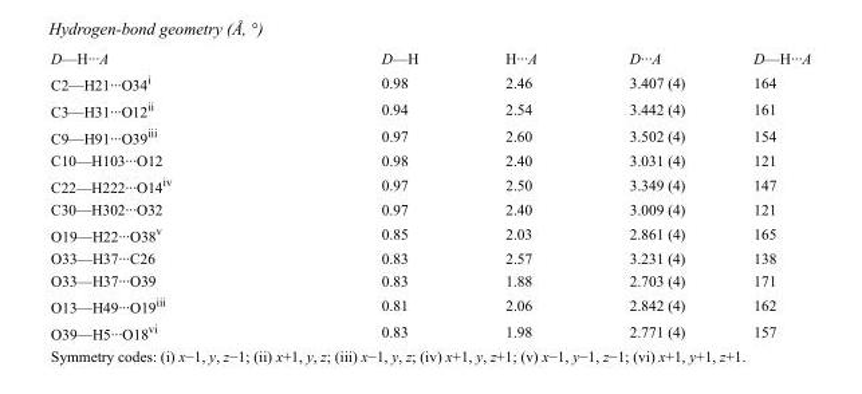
<table><tbody><tr><td>D—H···A</td><td>D—H</td><td>H···A</td><td>D···A</td><td>D—H···A</td></tr><tr><td>C2—H21···O34<sup>i</sup></td><td>0.98</td><td>2.46</td><td>3.407 (4)</td><td>164</td></tr><tr><td>C3—H31···O12<sup>ii</sup></td><td>0.94</td><td>2.54</td><td>3.442 (4)</td><td>161</td></tr><tr><td>C9—H91···O39<sup>iii</sup></td><td>0.97</td><td>2.60</td><td>3.502 (4)</td><td>154</td></tr><tr><td>C10—H103···O12</td><td>0.98</td><td>2.40</td><td>3.031 (4)</td><td>121</td></tr><tr><td>C22—H222···O14<sup>iv</sup></td><td>0.97</td><td>2.50</td><td>3.349 (4)</td><td>147</td></tr><tr><td>C30—H302···O32</td><td>0.97</td><td>2.40</td><td>3.009 (4)</td><td>121</td></tr><tr><td>O19—H22···O38<sup>v</sup></td><td>0.85</td><td>2.03</td><td>2.861 (4)</td><td>165</td></tr><tr><td>O33—H37···C26</td><td>0.83</td><td>2.57</td><td>3.231 (4)</td><td>138</td></tr><tr><td>O33—H37···O39</td><td>0.83</td><td>1.88</td><td>2.703 (4)</td><td>171</td></tr><tr><td>O13—H49···O19<sup>iii</sup></td><td>0.81</td><td>2.06</td><td>2.842 (4)</td><td>162</td></tr><tr><td>O39—H5···O18<sup>vi</sup></td><td>0.83</td><td>1.98</td><td>2.771 (4)</td><td>157</td></tr></tbody></table>